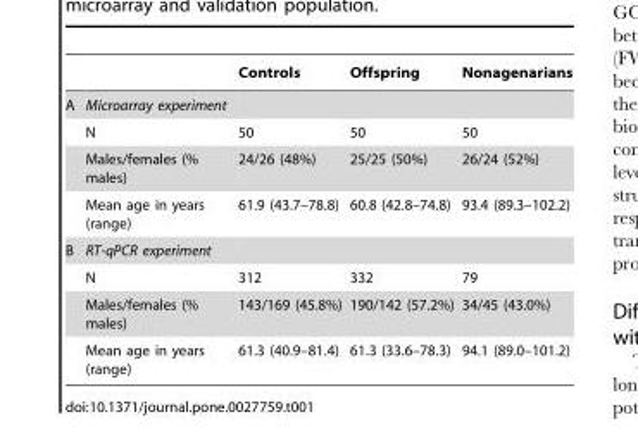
<table><thead><tr><td></td><td></td><td>Controls</td><td>Offspring</td><td>Nonagenarians</td></tr></thead><tbody><tr><td rowspan="4">A</td><td>Microarray experiment</td><td></td><td></td><td></td></tr><tr><td>N</td><td>50</td><td>50</td><td>50</td></tr><tr><td>Males/females (% males)</td><td>24/26 (48%)</td><td>25/25 (50%)</td><td>26/24 (52%)</td></tr><tr><td>Mean age in years (range)</td><td>61.9 (43.7–78.8)</td><td>60.8 (42.8–74.8)</td><td>93.4 (89.3–102.2)</td></tr><tr><td rowspan="4">B</td><td>RT-qPCR experiment</td><td></td><td></td><td></td></tr><tr><td>N</td><td>312</td><td>332</td><td>79</td></tr><tr><td>Males/females (% males)</td><td>143/169 (45.8%)</td><td>190/142 (57.2%)</td><td>34/45 (43.0%)</td></tr><tr><td>Mean age in years (range)</td><td>61.3 (40.9–81.4)</td><td>61.3 (33.6–78.3)</td><td>94.1 (89.0–101.2)</td></tr></tbody></table>